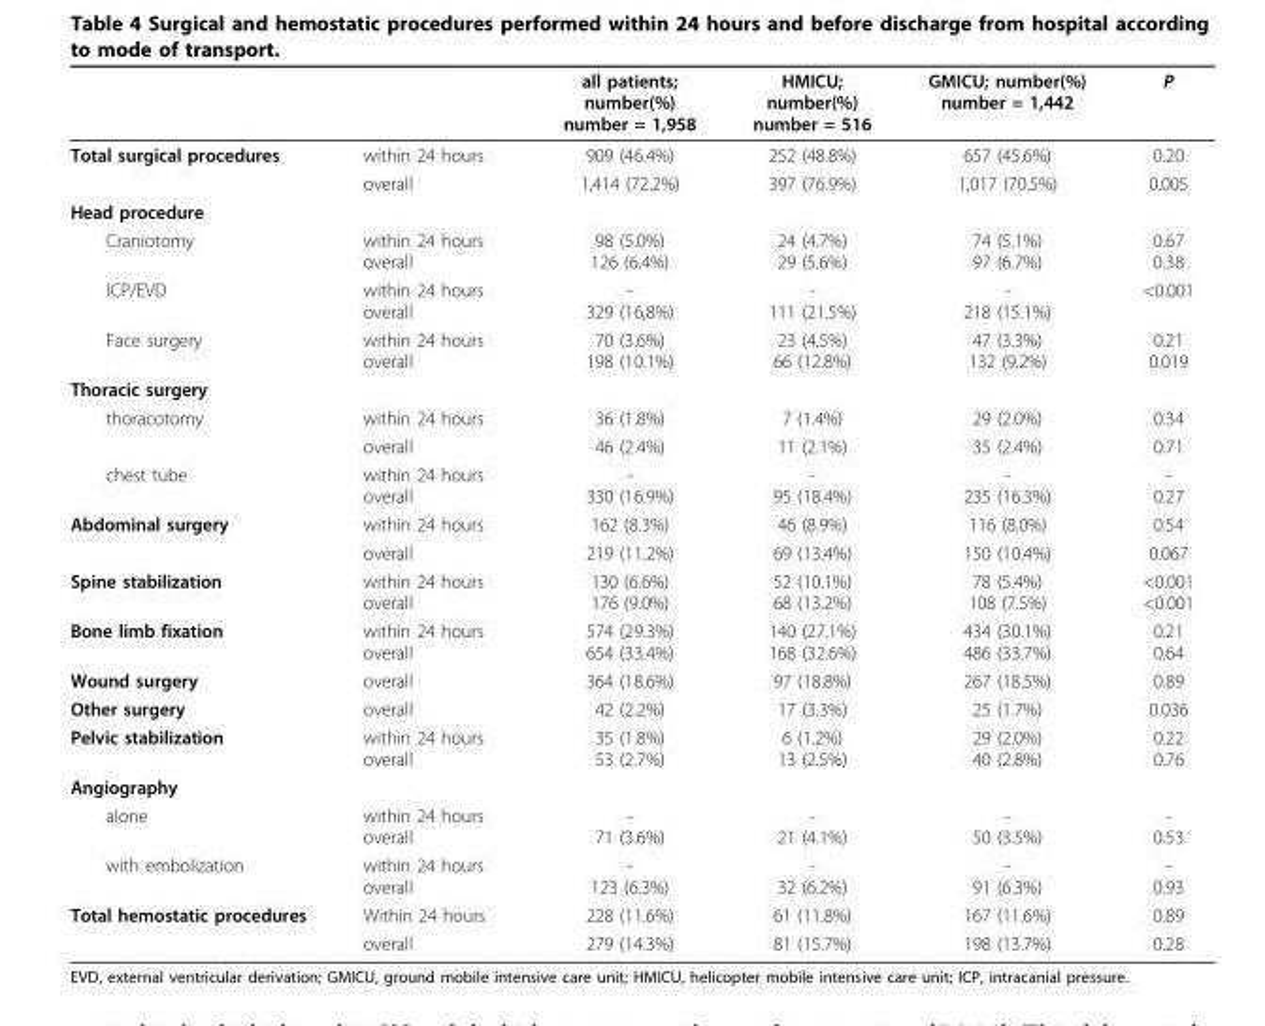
<table><thead><tr><td></td><td></td><td>all patients; number(%) number = 1,958</td><td>HMICU; number(%) number = 516</td><td>GMICU; number(%) number = 1,442</td><td>P</td></tr></thead><tbody><tr><td rowspan="2">Total surgical procedures</td><td>within 24 hours</td><td>909 (46.4%)</td><td>252 (48.8%)</td><td>657 (45.6%)</td><td>0.20</td></tr><tr><td>overall</td><td>1,414 (72.2%)</td><td>397 (76.9%)</td><td>1,017 (70.5%)</td><td>0.005</td></tr><tr><td colspan="6">Head procedure</td></tr><tr><td>Craniotomy</td><td>within 24 hours overall</td><td>98 (5.0%) 126 (6.4%)</td><td>24 (4.7%) 29 (5.6%)</td><td>74 (5.1%) 97 (6.7%)</td><td>0.67 0.38</td></tr><tr><td>ICP/EVD</td><td>within 24 hours overall</td><td>- 329 (16,8%)</td><td>- 111 (21.5%)</td><td>- 218 (15.1%)</td><td>&lt;0.001</td></tr><tr><td>Face surgery</td><td>within 24 hours overall</td><td>70 (3.6%) 198 (10.1%)</td><td>23 (4.5%) 66 (12.8%)</td><td>47 (3.3%) 132 (9.2%)</td><td>0.21 0.019</td></tr><tr><td colspan="6">Thoracic surgery</td></tr><tr><td rowspan="2">thoracotomy</td><td>within 24 hours</td><td>36 (1.8%)</td><td>7 (1.4%)</td><td>29 (2.0%)</td><td>0.34</td></tr><tr><td>overall</td><td>46 (2.4%)</td><td>11 (2.1%)</td><td>35 (2.4%)</td><td>0.71</td></tr><tr><td>chest tube</td><td>within 24 hours overall</td><td>- 330 (16.9%)</td><td>- 95 (18.4%)</td><td>- 235 (16.3%)</td><td>- 0.27</td></tr><tr><td rowspan="2">Abdominal surgery</td><td>within 24 hours</td><td>162 (8.3%)</td><td>46 (8.9%)</td><td>116 (8.0%)</td><td>0.54</td></tr><tr><td>overall</td><td>219 (11.2%)</td><td>69 (13.4%)</td><td>150 (10.4%)</td><td>0.067</td></tr><tr><td>Spine stabilization</td><td>within 24 hours overall</td><td>130 (6.6%) 176 (9.0%)</td><td>52 (10.1%) 68 (13.2%)</td><td>78 (5.4%) 108 (7.5%)</td><td>&lt;0.001 &lt;0.001</td></tr><tr><td>Bone limb fixation</td><td>within 24 hours overall</td><td>574 (29.3%) 654 (33.4%)</td><td>140 (27.1%) 168 (32.6%)</td><td>434 (30.1%) 486 (33.7%)</td><td>0.21 0.64</td></tr><tr><td>Wound surgery</td><td>overall</td><td>364 (18.6%)</td><td>97 (18.8%)</td><td>267 (18.5%)</td><td>0.89</td></tr><tr><td>Other surgery</td><td>overall</td><td>42 (2.2%)</td><td>17 (3.3%)</td><td>25 (1.7%)</td><td>0.036</td></tr><tr><td>Pelvic stabilization</td><td>within 24 hours overall</td><td>35 (1.8%) 53 (2.7%)</td><td>6 (1.2%) 13 (2.5%)</td><td>29 (2.0%) 40 (2.8%)</td><td>0.22 0.76</td></tr><tr><td colspan="6">Angiography</td></tr><tr><td>alone</td><td>within 24 hours overall</td><td>- 71 (3.6%)</td><td>- 21 (4.1%)</td><td>- 50 (3.5%)</td><td>- 0.53</td></tr><tr><td>with embolization</td><td>within 24 hours overall</td><td>- 123 (6.3%)</td><td>- 32 (6.2%)</td><td>- 91 (6.3%)</td><td>- 0.93</td></tr><tr><td rowspan="2">Total hemostatic procedures</td><td>Within 24 hours</td><td>228 (11.6%)</td><td>61 (11.8%)</td><td>167 (11.6%)</td><td>0.89</td></tr><tr><td>overall</td><td>279 (14.3%)</td><td>81 (15.7%)</td><td>198 (13.7%)</td><td>0.28</td></tr></tbody></table>